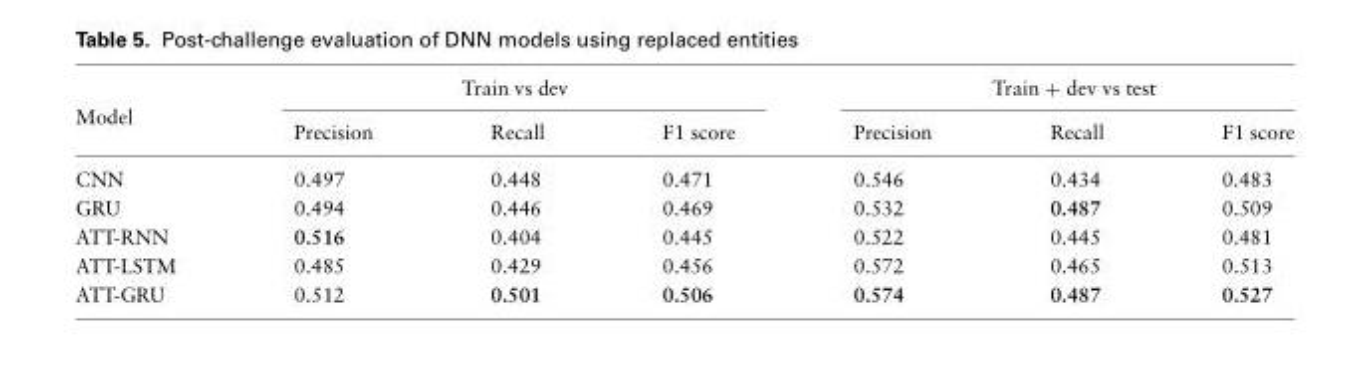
<table><thead><tr><td rowspan="2">Model</td><td colspan="3">Train vs dev</td><td colspan="3">Train + dev vs test</td></tr><tr><td>Precision</td><td>Recall</td><td>F1 score</td><td>Precision</td><td>Recall</td><td>F1 score</td></tr></thead><tbody><tr><td>CNN</td><td>0.497</td><td>0.448</td><td>0.471</td><td>0.546</td><td>0.434</td><td>0.483</td></tr><tr><td>GRU</td><td>0.494</td><td>0.446</td><td>0.469</td><td>0.532</td><td>0.487</td><td>0.509</td></tr><tr><td>ATT-RNN</td><td>0.516</td><td>0.404</td><td>0.445</td><td>0.522</td><td>0.445</td><td>0.481</td></tr><tr><td>ATT-LSTM</td><td>0.485</td><td>0.429</td><td>0.456</td><td>0.572</td><td>0.465</td><td>0.513</td></tr><tr><td>ATT-GRU</td><td>0.512</td><td>0.501</td><td>0.506</td><td>0.574</td><td>0.487</td><td>0.527</td></tr></tbody></table>